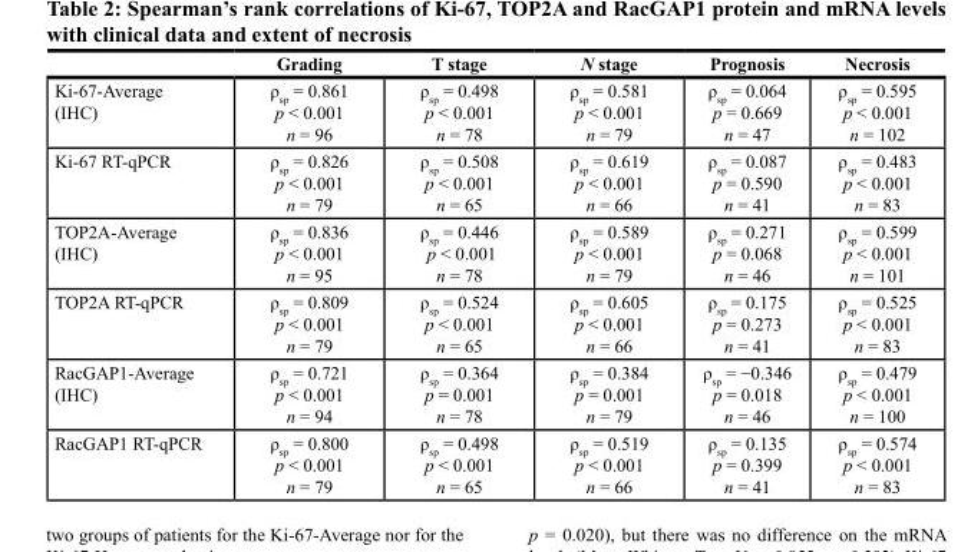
<table><thead><tr><td></td><td>Grading</td><td>T stage</td><td>N stage</td><td>Prognosis</td><td>Necrosis</td></tr></thead><tbody><tr><td>Ki-67-Average (IHC)</td><td>ρ<sub>sp</sub> = 0.861 p &lt; 0.001 n = 96</td><td>ρ<sub>sp</sub> = 0.498 p &lt; 0.001 n = 78</td><td>ρ<sub>sp</sub> = 0.581 p &lt; 0.001 n = 79</td><td>ρ<sub>sp</sub> = 0.064 p = 0.669 n = 47</td><td>ρ<sub>sp</sub> = 0.595 p &lt; 0.001 n = 102</td></tr><tr><td>Ki-67 RT-qPCR</td><td>ρ<sub>sp</sub> = 0.826 p &lt; 0.001 n = 79</td><td>ρ<sub>sp</sub> = 0.508 p &lt; 0.001 n = 65</td><td>ρ<sub>sp</sub> = 0.619 p &lt; 0.001 n = 66</td><td>ρ<sub>sp</sub> = 0.087 p = 0.590 n = 41</td><td>ρ<sub>sp</sub> = 0.483 p &lt; 0.001 n = 83</td></tr><tr><td>TOP2A-Average (IHC)</td><td>ρ<sub>sp</sub> = 0.836 p &lt; 0.001 n = 95</td><td>ρ<sub>sp</sub> = 0.446 p &lt; 0.001 n = 78</td><td>ρ<sub>sp</sub> = 0.589 p &lt; 0.001 n = 79</td><td>ρ<sub>sp</sub> = 0.271 p = 0.068 n = 46</td><td>ρ<sub>sp</sub> = 0.599 p &lt; 0.001 n = 101</td></tr><tr><td>TOP2A RT-qPCR</td><td>ρ<sub>sp</sub> = 0.809 p &lt; 0.001 n = 79</td><td>ρ<sub>sp</sub> = 0.524 p &lt; 0.001 n = 65</td><td>ρ<sub>sp</sub> = 0.605 p &lt; 0.001 n = 66</td><td>ρ<sub>sp</sub> = 0.175 p = 0.273 n = 41</td><td>ρ<sub>sp</sub> = 0.525 p &lt; 0.001 n = 83</td></tr><tr><td>RacGAP1-Average (IHC)</td><td>ρ<sub>sp</sub> = 0.721 p &lt; 0.001 n = 94</td><td>ρ<sub>sp</sub> = 0.364 p = 0.001 n = 78</td><td>ρ<sub>sp</sub> = 0.384 p = 0.001 n = 79</td><td>ρ<sub>sp</sub> = −0.346 p = 0.018 n = 46</td><td>ρ<sub>sp</sub> = 0.479 p &lt; 0.001 n = 100</td></tr><tr><td>RacGAP1 RT-qPCR</td><td>ρ<sub>sp</sub> = 0.800 p &lt; 0.001 n = 79</td><td>ρ<sub>sp</sub> = 0.498 p &lt; 0.001 n = 65</td><td>ρ<sub>sp</sub> = 0.519 p &lt; 0.001 n = 66</td><td>ρ<sub>sp</sub> = 0.135 p = 0.399 n = 41</td><td>ρ<sub>sp</sub> = 0.574 p &lt; 0.001 n = 83</td></tr></tbody></table>